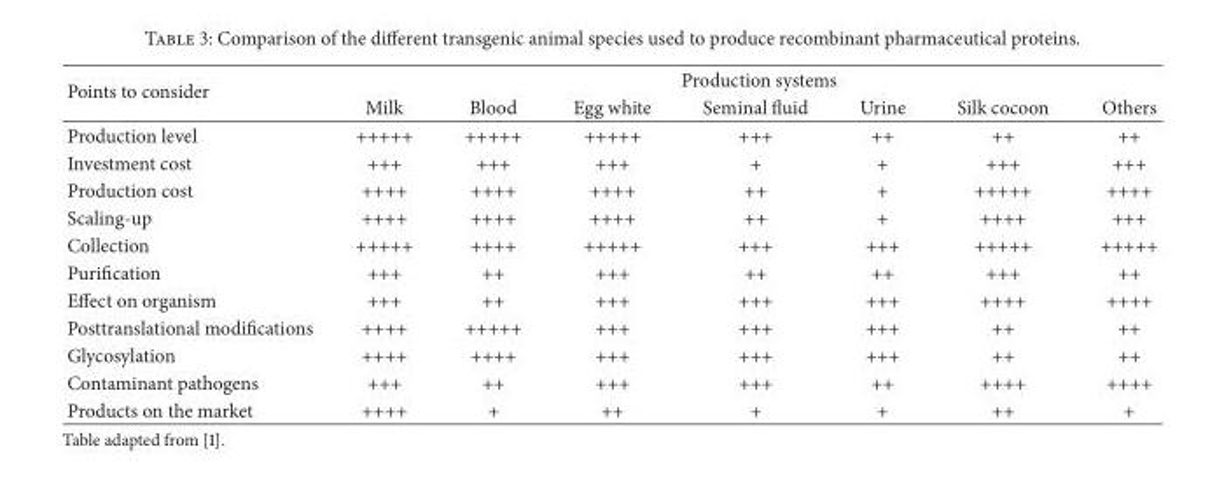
<table><thead><tr><td rowspan="2">Points to consider</td><td colspan="7">Production systems</td></tr><tr><td>Milk</td><td>Blood</td><td>Egg white</td><td>Seminal fluid</td><td>Urine</td><td>Silk cocoon</td><td>Others</td></tr></thead><tbody><tr><td>Production level</td><td>+++++</td><td>+++++</td><td>+++++</td><td>+++</td><td>++</td><td>++</td><td>++</td></tr><tr><td>Investment cost</td><td>+++</td><td>+++</td><td>+++</td><td>+</td><td>+</td><td>+++</td><td>+++</td></tr><tr><td>Production cost</td><td>++++</td><td>++++</td><td>++++</td><td>++</td><td>+</td><td>+++++</td><td>++++</td></tr><tr><td>Scaling-up</td><td>++++</td><td>++++</td><td>++++</td><td>++</td><td>+</td><td>++++</td><td>+++</td></tr><tr><td>Collection</td><td>+++++</td><td>++++</td><td>+++++</td><td>+++</td><td>+++</td><td>+++++</td><td>+++++</td></tr><tr><td>Purification</td><td>+++</td><td>++</td><td>+++</td><td>++</td><td>++</td><td>+++</td><td>++</td></tr><tr><td>Effect on organism</td><td>+++</td><td>++</td><td>+++</td><td>+++</td><td>+++</td><td>++++</td><td>++++</td></tr><tr><td>Posttranslational modifications</td><td>++++</td><td>+++++</td><td>+++</td><td>+++</td><td>+++</td><td>++</td><td>++</td></tr><tr><td>Glycosylation</td><td>++++</td><td>++++</td><td>+++</td><td>+++</td><td>+++</td><td>++</td><td>++</td></tr><tr><td>Contaminant pathogens</td><td>+++</td><td>++</td><td>+++</td><td>+++</td><td>++</td><td>++++</td><td>++++</td></tr><tr><td>Products on the market</td><td>++++</td><td>+</td><td>++</td><td>+</td><td>+</td><td>++</td><td>+</td></tr></tbody></table>